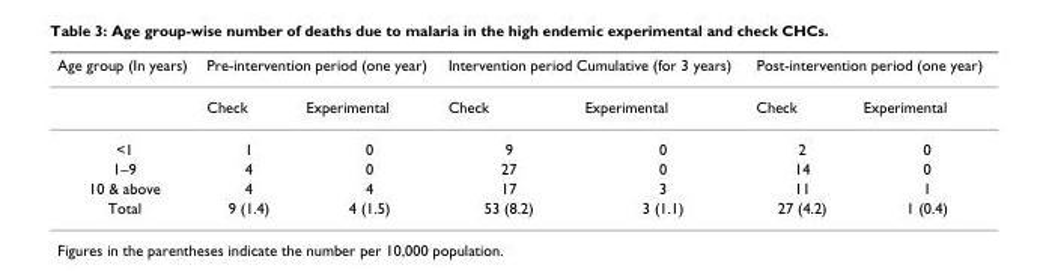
<table><thead><tr><td rowspan="2">Age group (In years)</td><td colspan="2">Pre-intervention period (one year)</td><td colspan="2">Intervention period Cumulative (for 3 years)</td><td colspan="2">Post-intervention period (one year)</td></tr><tr><td>Check</td><td>Experimental</td><td>Check</td><td>Experimental</td><td>Check</td><td>Experimental</td></tr></thead><tbody><tr><td>&lt;1</td><td>1</td><td>0</td><td>9</td><td>0</td><td>2</td><td>0</td></tr><tr><td>1–9</td><td>4</td><td>0</td><td>27</td><td>0</td><td>14</td><td>0</td></tr><tr><td>10 &amp; above</td><td>4</td><td>4</td><td>17</td><td>3</td><td>11</td><td>1</td></tr><tr><td>Total</td><td>9 (1.4)</td><td>4 (1.5)</td><td>53 (8.2)</td><td>3 (1.1)</td><td>27 (4.2)</td><td>1 (0.4)</td></tr></tbody></table>